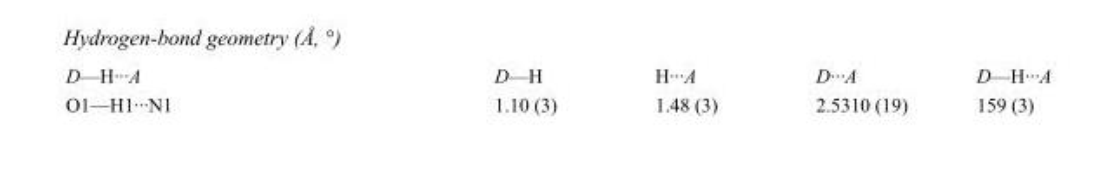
<table><tbody><tr><td>D—H···A</td><td>D—H</td><td>H···A</td><td>D···A</td><td>D—H···A</td></tr><tr><td>O1—H1···N1</td><td>1.10 (3)</td><td>1.48 (3)</td><td>2.5310 (19)</td><td>159 (3)</td></tr></tbody></table>